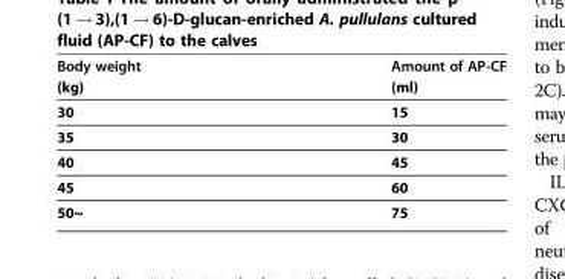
<table><thead><tr><td>Body weight</td><td>Amount of AP-CF</td></tr></thead><tbody><tr><td>(kg)</td><td>(ml)</td></tr><tr><td>30</td><td>15</td></tr><tr><td>35</td><td>30</td></tr><tr><td>40</td><td>45</td></tr><tr><td>45</td><td>60</td></tr><tr><td>50~</td><td>75</td></tr></tbody></table>